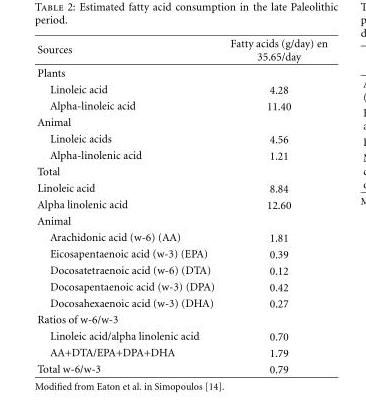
<table><thead><tr><td>Sources</td><td>Fatty acids (g/day) en 35.65/day</td></tr></thead><tbody><tr><td colspan="2">Plants</td></tr><tr><td>Linoleic acid</td><td>4.28</td></tr><tr><td>Alpha-linoleic acid</td><td>11.40</td></tr><tr><td colspan="2">Animal</td></tr><tr><td>Linoleic acids</td><td>4.56</td></tr><tr><td>Alpha-linolenic acid</td><td>1.21</td></tr><tr><td colspan="2">Total</td></tr><tr><td>Linoleic acid</td><td>8.84</td></tr><tr><td>Alpha linolenic acid</td><td>12.60</td></tr><tr><td colspan="2">Animal</td></tr><tr><td>Arachidonic acid (w-6) (AA)</td><td>1.81</td></tr><tr><td>Eicosapentaenoic acid (w-3) (EPA)</td><td>0.39</td></tr><tr><td>Docosatetraenoic acid (w-6) (DTA)</td><td>0.12</td></tr><tr><td>Docosapentaenoic acid (w-3) (DPA)</td><td>0.42</td></tr><tr><td>Docosahexaenoic acid (w-3) (DHA)</td><td>0.27</td></tr><tr><td colspan="2">Ratios of w-6/w-3</td></tr><tr><td>Linoleic acid/alpha linolenic acid</td><td>0.70</td></tr><tr><td>AA+DTA/EPA+DPA+DHA</td><td>1.79</td></tr><tr><td>Total w-6/w-3</td><td>0.79</td></tr></tbody></table>